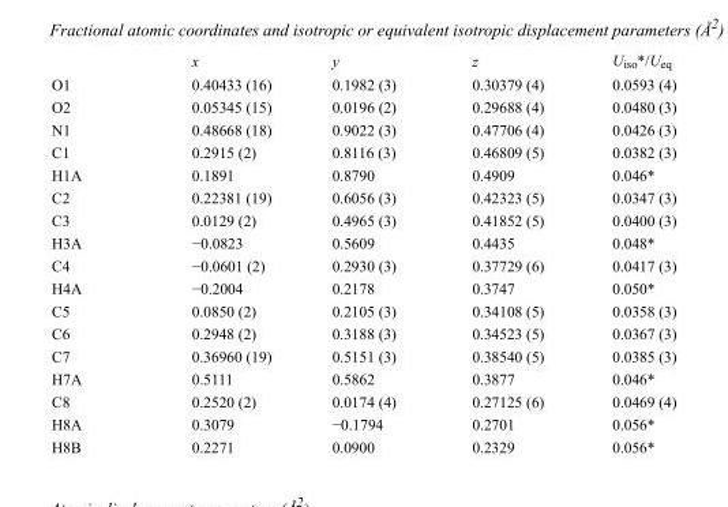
<table><thead><tr><td></td><td>x</td><td>y</td><td>z</td><td>U<sub>iso</sub>*/U<sub>eq</sub></td></tr></thead><tbody><tr><td>O1</td><td>0.40433 (16)</td><td>0.1982 (3)</td><td>0.30379 (4)</td><td>0.0593 (4)</td></tr><tr><td>O2</td><td>0.05345 (15)</td><td>0.0196 (2)</td><td>0.29688 (4)</td><td>0.0480 (3)</td></tr><tr><td>N1</td><td>0.48668 (18)</td><td>0.9022 (3)</td><td>0.47706 (4)</td><td>0.0426 (3)</td></tr><tr><td>C1</td><td>0.2915 (2)</td><td>0.8116 (3)</td><td>0.46809 (5)</td><td>0.0382 (3)</td></tr><tr><td>H1A</td><td>0.1891</td><td>0.8790</td><td>0.4909</td><td>0.046*</td></tr><tr><td>C2</td><td>0.22381 (19)</td><td>0.6056 (3)</td><td>0.42323 (5)</td><td>0.0347 (3)</td></tr><tr><td>C3</td><td>0.0129 (2)</td><td>0.4965 (3)</td><td>0.41852 (5)</td><td>0.0400 (3)</td></tr><tr><td>H3A</td><td>−0.0823</td><td>0.5609</td><td>0.4435</td><td>0.048*</td></tr><tr><td>C4</td><td>−0.0601 (2)</td><td>0.2930 (3)</td><td>0.37729 (6)</td><td>0.0417 (3)</td></tr><tr><td>H4A</td><td>−0.2004</td><td>0.2178</td><td>0.3747</td><td>0.050*</td></tr><tr><td>C5</td><td>0.0850 (2)</td><td>0.2105 (3)</td><td>0.34108 (5)</td><td>0.0358 (3)</td></tr><tr><td>C6</td><td>0.2948 (2)</td><td>0.3188 (3)</td><td>0.34523 (5)</td><td>0.0367 (3)</td></tr><tr><td>C7</td><td>0.36960 (19)</td><td>0.5151 (3)</td><td>0.38540 (5)</td><td>0.0385 (3)</td></tr><tr><td>H7A</td><td>0.5111</td><td>0.5862</td><td>0.3877</td><td>0.046*</td></tr><tr><td>C8</td><td>0.2520 (2)</td><td>0.0174 (4)</td><td>0.27125 (6)</td><td>0.0469 (4)</td></tr><tr><td>H8A</td><td>0.3079</td><td>−0.1794</td><td>0.2701</td><td>0.056*</td></tr><tr><td>H8B</td><td>0.2271</td><td>0.0900</td><td>0.2329</td><td>0.056*</td></tr></tbody></table>